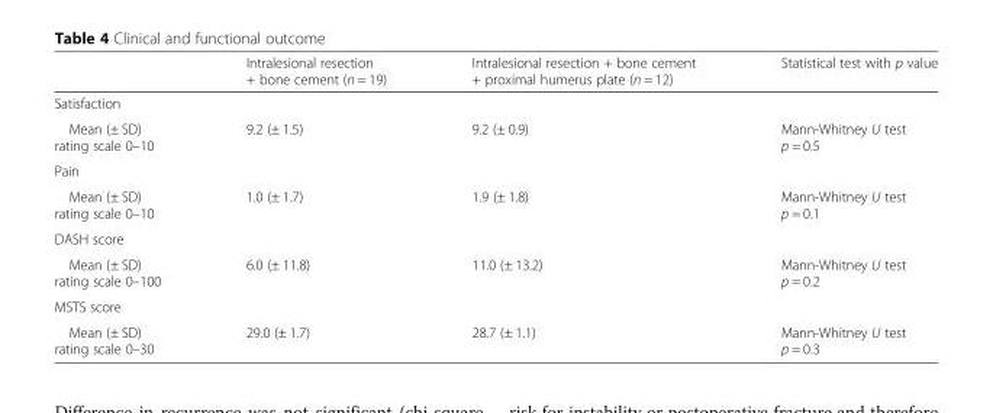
<table><thead><tr><td></td><td>Intralesional resection + bone cement (n = 19)</td><td>Intralesional resection + bone cement + proximal humerus plate (n = 12)</td><td>Statistical test with p value</td></tr></thead><tbody><tr><td colspan="4">Satisfaction</td></tr><tr><td>Mean (± SD) rating scale 0–10</td><td>9.2 (± 1.5)</td><td>9.2 (± 0.9)</td><td>Mann-Whitney U test p = 0.5</td></tr><tr><td colspan="4">Pain</td></tr><tr><td>Mean (± SD) rating scale 0–10</td><td>1.0 (± 1.7)</td><td>1.9 (± 1.8)</td><td>Mann-Whitney U test p = 0.1</td></tr><tr><td colspan="4">DASH score</td></tr><tr><td>Mean (± SD) rating scale 0–100</td><td>6.0 (± 11.8)</td><td>11.0 (± 13.2)</td><td>Mann-Whitney U test p = 0.2</td></tr><tr><td colspan="4">MSTS score</td></tr><tr><td>Mean (± SD) rating scale 0–30</td><td>29.0 (± 1.7)</td><td>28.7 (± 1.1)</td><td>Mann-Whitney U test p = 0.3</td></tr></tbody></table>